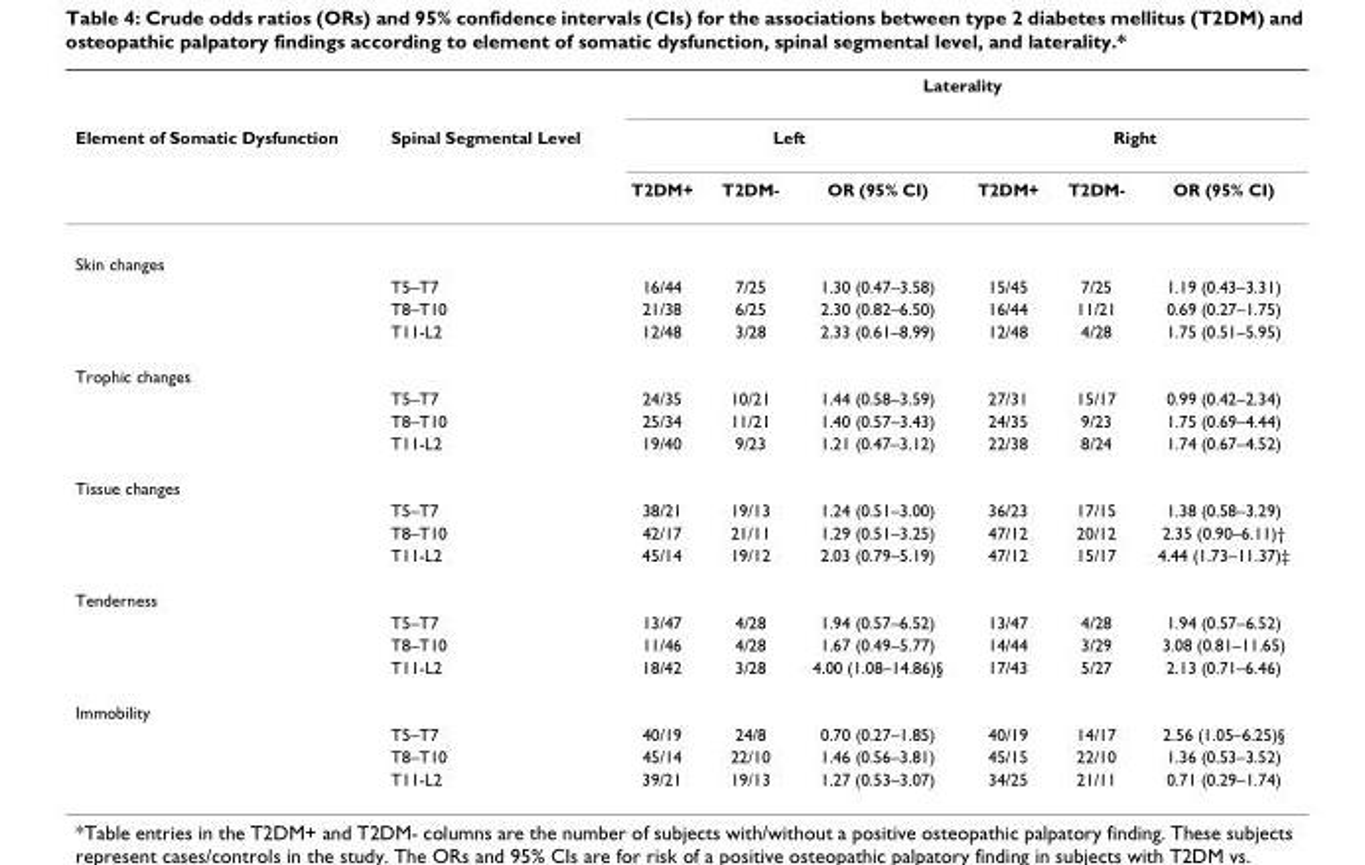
<table><thead><tr><td rowspan="3">Element of Somatic Dysfunction</td><td rowspan="3">Spinal Segmental Level</td><td colspan="6">Laterality</td></tr><tr><td colspan="3">Left</td><td colspan="3">Right</td></tr><tr><td>T2DM+</td><td>T2DM-</td><td>OR (95% CI)</td><td>T2DM+</td><td>T2DM-</td><td>OR (95% CI)</td></tr></thead><tbody><tr><td colspan="8">Skin changes</td></tr><tr><td></td><td>T5–T7</td><td>16/44</td><td>7/25</td><td>1.30 (0.47–3.58)</td><td>15/45</td><td>7/25</td><td>1.19 (0.43–3.31)</td></tr><tr><td></td><td>T8–T10</td><td>21/38</td><td>6/25</td><td>2.30 (0.82–6.50)</td><td>16/44</td><td>11/21</td><td>0.69 (0.27–1.75)</td></tr><tr><td></td><td>T11-L2</td><td>12/48</td><td>3/28</td><td>2.33 (0.61–8.99)</td><td>12/48</td><td>4/28</td><td>1.75 (0.51–5.95)</td></tr><tr><td colspan="8">Trophic changes</td></tr><tr><td></td><td>T5–T7</td><td>24/35</td><td>10/21</td><td>1.44 (0.58–3.59)</td><td>27/31</td><td>15/17</td><td>0.99 (0.42–2.34)</td></tr><tr><td></td><td>T8–T10</td><td>25/34</td><td>11/21</td><td>1.40 (0.57–3.43)</td><td>24/35</td><td>9/23</td><td>1.75 (0.69–4.44)</td></tr><tr><td></td><td>T11-L2</td><td>19/40</td><td>9/23</td><td>1.21 (0.47–3.12)</td><td>22/38</td><td>8/24</td><td>1.74 (0.67–4.52)</td></tr><tr><td colspan="8">Tissue changes</td></tr><tr><td></td><td>T5–T7</td><td>38/21</td><td>19/13</td><td>1.24 (0.51–3.00)</td><td>36/23</td><td>17/15</td><td>1.38 (0.58–3.29)</td></tr><tr><td></td><td>T8–T10</td><td>42/17</td><td>21/11</td><td>1.29 (0.51–3.25)</td><td>47/12</td><td>20/12</td><td>2.35 (0.90–6.11)†</td></tr><tr><td></td><td>T11-L2</td><td>45/14</td><td>19/12</td><td>2.03 (0.79–5.19)</td><td>47/12</td><td>15/17</td><td>4.44 (1.73–11.37)‡</td></tr><tr><td colspan="8">Tenderness</td></tr><tr><td></td><td>T5–T7</td><td>13/47</td><td>4/28</td><td>1.94 (0.57–6.52)</td><td>13/47</td><td>4/28</td><td>1.94 (0.57–6.52)</td></tr><tr><td></td><td>T8–T10</td><td>11/46</td><td>4/28</td><td>1.67 (0.49–5.77)</td><td>14/44</td><td>3/29</td><td>3.08 (0.81–11.65)</td></tr><tr><td></td><td>T11-L2</td><td>18/42</td><td>3/28</td><td>4.00 (1.08–14.86)§</td><td>17/43</td><td>5/27</td><td>2.13 (0.71–6.46)</td></tr><tr><td colspan="8">Immobility</td></tr><tr><td></td><td>T5–T7</td><td>40/19</td><td>24/8</td><td>0.70 (0.27–1.85)</td><td>40/19</td><td>14/17</td><td>2.56 (1.05–6.25)§</td></tr><tr><td></td><td>T8–T10</td><td>45/14</td><td>22/10</td><td>1.46 (0.56–3.81)</td><td>45/15</td><td>22/10</td><td>1.36 (0.53–3.52)</td></tr><tr><td></td><td>T11-L2</td><td>39/21</td><td>19/13</td><td>1.27 (0.53–3.07)</td><td>34/25</td><td>21/11</td><td>0.71 (0.29–1.74)</td></tr></tbody></table>